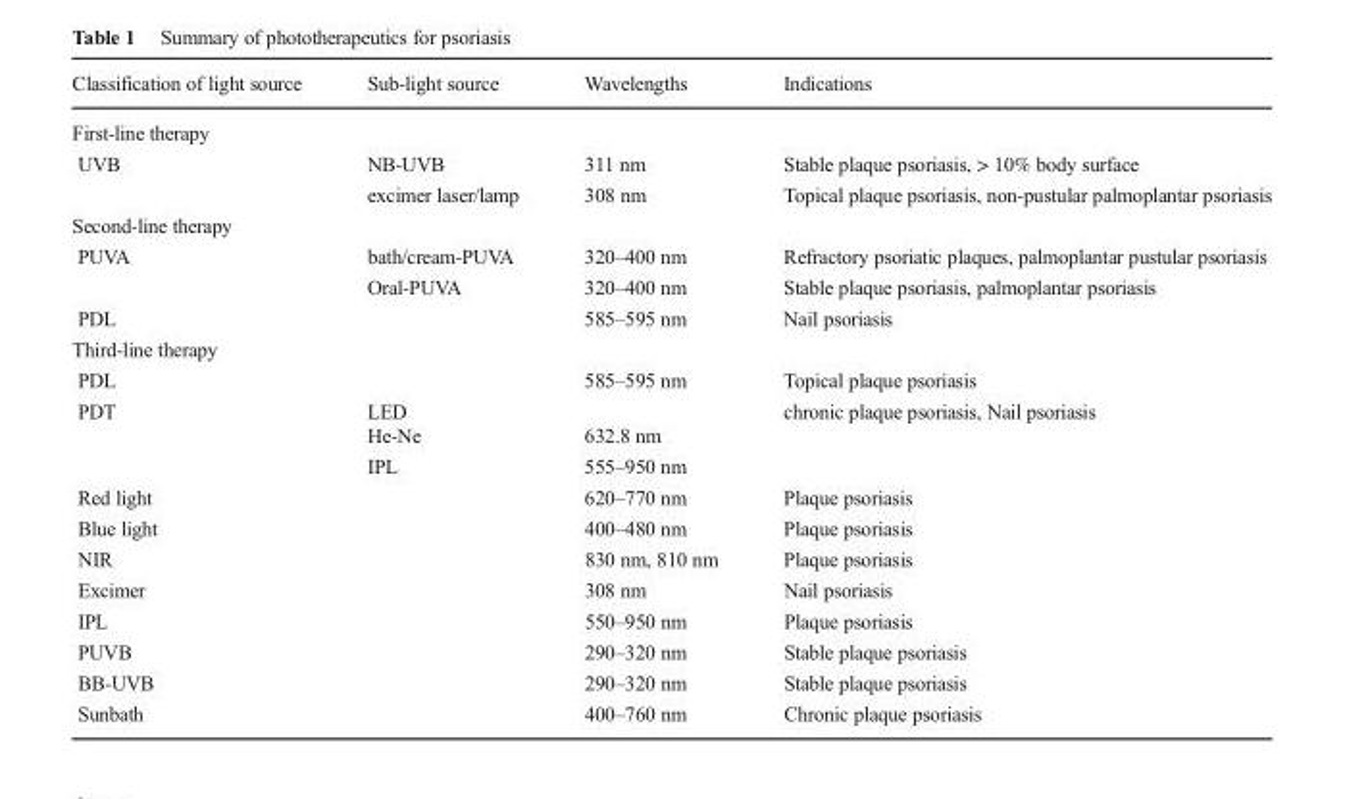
<table><thead><tr><td>Classification of light source</td><td>Sub-light source</td><td>Wavelengths</td><td>Indications</td></tr></thead><tbody><tr><td colspan="4">First-line therapy</td></tr><tr><td rowspan="2">UVB</td><td>NB-UVB</td><td>311 nm</td><td>Stable plaque psoriasis, &gt; 10% body surface</td></tr><tr><td>excimer laser/lamp</td><td>308 nm</td><td>Topical plaque psoriasis, non-pustular palmoplantar psoriasis</td></tr><tr><td colspan="4">Second-line therapy</td></tr><tr><td rowspan="2">PUVA</td><td>bath/cream-PUVA</td><td>320–400 nm</td><td>Refractory psoriatic plaques, palmoplantar pustular psoriasis</td></tr><tr><td>Oral-PUVA</td><td>320–400 nm</td><td>Stable plaque psoriasis, palmoplantar psoriasis</td></tr><tr><td>PDL</td><td></td><td>585–595 nm</td><td>Nail psoriasis</td></tr><tr><td colspan="4">Third-line therapy</td></tr><tr><td>PDL</td><td></td><td>585–595 nm</td><td>Topical plaque psoriasis</td></tr><tr><td rowspan="3">PDT</td><td>LED</td><td></td><td rowspan="3">chronic plaque psoriasis, Nail psoriasis</td></tr><tr><td>He-Ne</td><td>632.8 nm</td></tr><tr><td>IPL</td><td>555–950 nm</td></tr><tr><td>Red light</td><td></td><td>620–770 nm</td><td>Plaque psoriasis</td></tr><tr><td>Blue light</td><td></td><td>400–480 nm</td><td>Plaque psoriasis</td></tr><tr><td>NIR</td><td></td><td>830 nm, 810 nm</td><td>Plaque psoriasis</td></tr><tr><td>Excimer</td><td></td><td>308 nm</td><td>Nail psoriasis</td></tr><tr><td>IPL</td><td></td><td>550–950 nm</td><td>Plaque psoriasis</td></tr><tr><td>PUVB</td><td></td><td>290–320 nm</td><td>Stable plaque psoriasis</td></tr><tr><td>BB-UVB</td><td></td><td>290–320 nm</td><td>Stable plaque psoriasis</td></tr><tr><td>Sunbath</td><td></td><td>400–760 nm</td><td>Chronic plaque psoriasis</td></tr></tbody></table>